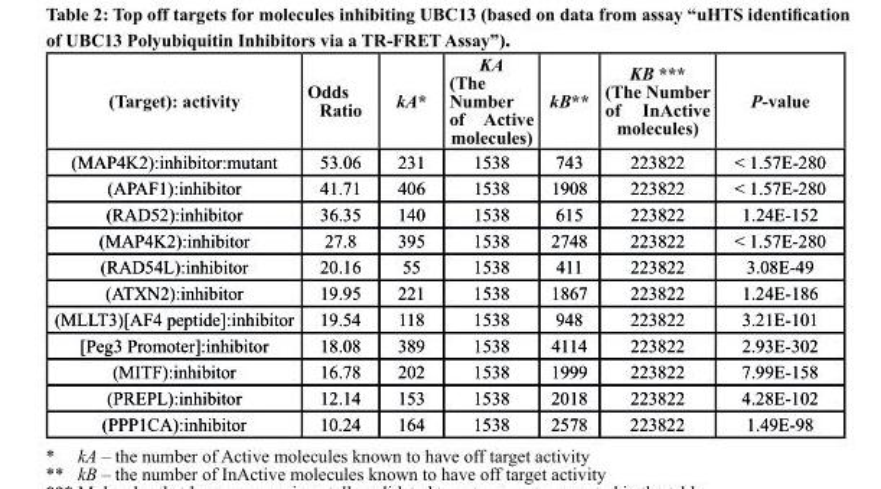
<table><thead><tr><td>(target): activity</td><td>odds ratio</td><td>kA*</td><td>KA (the number of Active molecules)</td><td>kB**</td><td>KB *** (the number of InActive molecules)</td><td>P-value</td></tr></thead><tbody><tr><td>(MAP4K2):inhibitor:mutant</td><td>53.06</td><td>231</td><td>1538</td><td>743</td><td>223822</td><td>&lt; 1.57E-280</td></tr><tr><td>(APAF1):inhibitor</td><td>41.71</td><td>406</td><td>1538</td><td>1908</td><td>223822</td><td>&lt; 1.57E-280</td></tr><tr><td>(RAD52):inhibitor</td><td>36.35</td><td>140</td><td>1538</td><td>615</td><td>223822</td><td>1.24E-152</td></tr><tr><td>(MAP4K2):inhibitor</td><td>27.8</td><td>395</td><td>1538</td><td>2748</td><td>223822</td><td>&lt; 1.57E-280</td></tr><tr><td>(RAD54L):inhibitor</td><td>20.16</td><td>55</td><td>1538</td><td>411</td><td>223822</td><td>3.08E-49</td></tr><tr><td>(ATXN2):inhibitor</td><td>19.95</td><td>221</td><td>1538</td><td>1867</td><td>223822</td><td>1.24E-186</td></tr><tr><td>(MLLT3)[AF4 peptide]:inhibitor</td><td>19.54</td><td>118</td><td>1538</td><td>948</td><td>223822</td><td>3.21E-101</td></tr><tr><td>[Peg3 Promoter]:inhibitor</td><td>18.08</td><td>389</td><td>1538</td><td>4114</td><td>223822</td><td>2.93E-302</td></tr><tr><td>(MITF):inhibitor</td><td>16.78</td><td>202</td><td>1538</td><td>1999</td><td>223822</td><td>7.99E-158</td></tr><tr><td>(PREPL):inhibitor</td><td>12.14</td><td>153</td><td>1538</td><td>2018</td><td>223822</td><td>4.28E-102</td></tr><tr><td>(PPP1CA):inhibitor</td><td>10.24</td><td>164</td><td>1538</td><td>2578</td><td>223822</td><td>1.49E-98</td></tr></tbody></table>